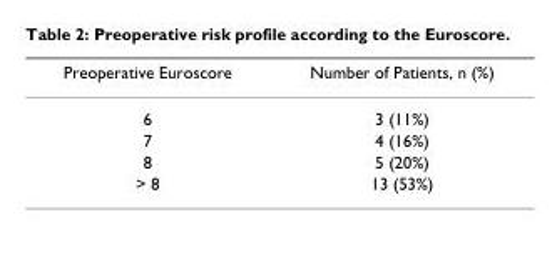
<table><thead><tr><td>Preoperative Euroscore</td><td>Number of Patients, n (%)</td></tr></thead><tbody><tr><td>6</td><td>3 (11%)</td></tr><tr><td>7</td><td>4 (16%)</td></tr><tr><td>8</td><td>5 (20%)</td></tr><tr><td>&gt; 8</td><td>13 (53%)</td></tr></tbody></table>